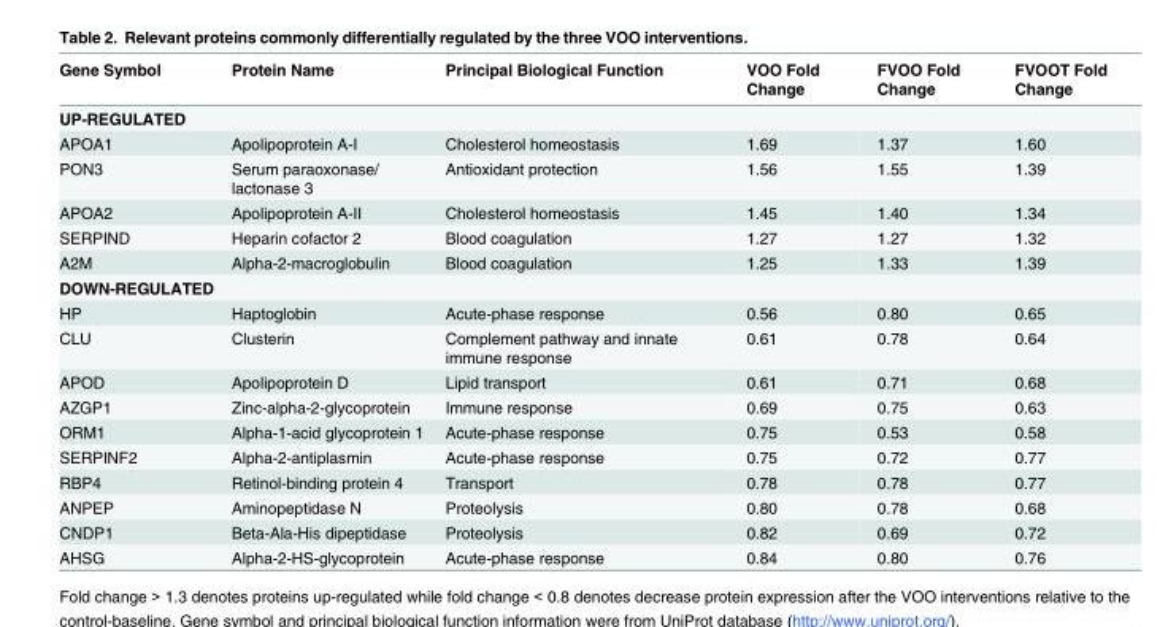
<table><thead><tr><td>Gene Symbol</td><td>Protein Name</td><td>Principal Biological Function</td><td>VOO Fold Change</td><td>FVOO Fold Change</td><td>FVOOT Fold Change</td></tr></thead><tbody><tr><td colspan="6">UP-REGULATED</td></tr><tr><td>APOA1</td><td>Apolipoprotein A-I</td><td>Cholesterol homeostasis</td><td>1.69</td><td>1.37</td><td>1.60</td></tr><tr><td>PON3</td><td>Serum paraoxonase/ lactonase 3</td><td>Antioxidant protection</td><td>1.56</td><td>1.55</td><td>1.39</td></tr><tr><td>APOA2</td><td>Apolipoprotein A-II</td><td>Cholesterol homeostasis</td><td>1.45</td><td>1.40</td><td>1.34</td></tr><tr><td>SERPIND</td><td>Heparin cofactor 2</td><td>Blood coagulation</td><td>1.27</td><td>1.27</td><td>1.32</td></tr><tr><td>A2M</td><td>Alpha-2-macroglobulin</td><td>Blood coagulation</td><td>1.25</td><td>1.33</td><td>1.39</td></tr><tr><td colspan="6">DOWN-REGULATED</td></tr><tr><td>HP</td><td>Haptoglobin</td><td>Acute-phase response</td><td>0.56</td><td>0.80</td><td>0.65</td></tr><tr><td>CLU</td><td>Clusterin</td><td>Complement pathway and innate immune response</td><td>0.61</td><td>0.78</td><td>0.64</td></tr><tr><td>APOD</td><td>Apolipoprotein D</td><td>Lipid transport</td><td>0.61</td><td>0.71</td><td>0.68</td></tr><tr><td>AZGP1</td><td>Zinc-alpha-2-glycoprotein</td><td>Immune response</td><td>0.69</td><td>0.75</td><td>0.63</td></tr><tr><td>ORM1</td><td>Alpha-1-acid glycoprotein 1</td><td>Acute-phase response</td><td>0.75</td><td>0.53</td><td>0.58</td></tr><tr><td>SERPINF2</td><td>Alpha-2-antiplasmin</td><td>Acute-phase response</td><td>0.75</td><td>0.72</td><td>0.77</td></tr><tr><td>RBP4</td><td>Retinol-binding protein 4</td><td>Transport</td><td>0.78</td><td>0.78</td><td>0.77</td></tr><tr><td>ANPEP</td><td>Aminopeptidase N</td><td>Proteolysis</td><td>0.80</td><td>0.78</td><td>0.68</td></tr><tr><td>CNDP1</td><td>Beta-Ala-His dipeptidase</td><td>Proteolysis</td><td>0.82</td><td>0.69</td><td>0.72</td></tr><tr><td>AHSG</td><td>Alpha-2-HS-glycoprotein</td><td>Acute-phase response</td><td>0.84</td><td>0.80</td><td>0.76</td></tr></tbody></table>